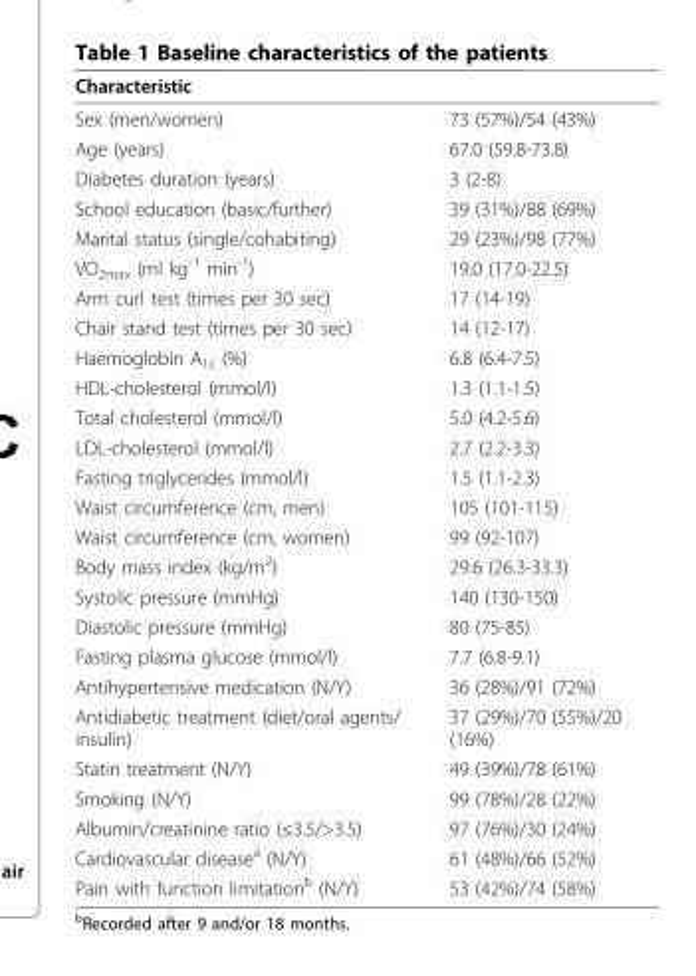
<table><thead><tr><td>Characteristic</td><td></td></tr></thead><tbody><tr><td>Sex (men/women)</td><td>73 (57%)/54 (43%)</td></tr><tr><td>Age (years)</td><td>67.0 (59.8-73.8)</td></tr><tr><td>Diabetes duration (years)</td><td>3 (2-8)</td></tr><tr><td>School education (basic/further)</td><td>39 (31%)/88 (69%)</td></tr><tr><td>Marital status (single/cohabiting)</td><td>29 (23%)/98 (77%)</td></tr><tr><td>VO<sub>2max</sub> (ml kg<sup>-1</sup> min<sup>-1</sup>)</td><td>19.0 (17.0-22.5)</td></tr><tr><td>Arm curl test (times per 30 sec)</td><td>17 (14-19)</td></tr><tr><td>Chair stand test (times per 30 sec)</td><td>14 (12-17)</td></tr><tr><td>Haemoglobin A<sub>1c</sub> (%)</td><td>6.8 (6.4-7.5)</td></tr><tr><td>HDL-cholesterol (mmol/l)</td><td>1.3 (1.1-1.5)</td></tr><tr><td>Total cholesterol (mmol/l)</td><td>5.0 (4.2-5.6)</td></tr><tr><td>LDL-cholesterol (mmol/l)</td><td>2.7 (2.2-3.3)</td></tr><tr><td>Fasting triglycerides (mmol/l)</td><td>1.5 (1.1-2.3)</td></tr><tr><td>Waist circumference (cm, men)</td><td>105 (101-115)</td></tr><tr><td>Waist circumference (cm, women)</td><td>99 (92-107)</td></tr><tr><td>Body mass index (kg/m<sup>2</sup>)</td><td>29.6 (26.3-33.3)</td></tr><tr><td>Systolic pressure (mmHg)</td><td>140 (130-150)</td></tr><tr><td>Diastolic pressure (mmHg)</td><td>80 (75-85)</td></tr><tr><td>Fasting plasma glucose (mmol/l)</td><td>7.7 (6.8-9.1)</td></tr><tr><td>Antihypertensive medication (N/Y)</td><td>36 (28%)/91 (72%)</td></tr><tr><td>Antidiabetic treatment (diet/oral agents/ insulin)</td><td>37 (29%)/70 (55%)/20 (16%)</td></tr><tr><td>Statin treatment (N/Y)</td><td>49 (39%)/78 (61%)</td></tr><tr><td>Smoking (N/Y)</td><td>99 (78%)/28 (22%)</td></tr><tr><td>Albumin/creatinine ratio (≤3.5/&gt;3.5)</td><td>97 (76%)/30 (24%)</td></tr><tr><td>Cardiovascular disease<sup>a</sup> (N/Y)</td><td>61 (48%)/66 (52%)</td></tr><tr><td>Pain with function limitation<sup>b</sup> (N/Y)</td><td>53 (42%)/74 (58%)</td></tr></tbody></table>